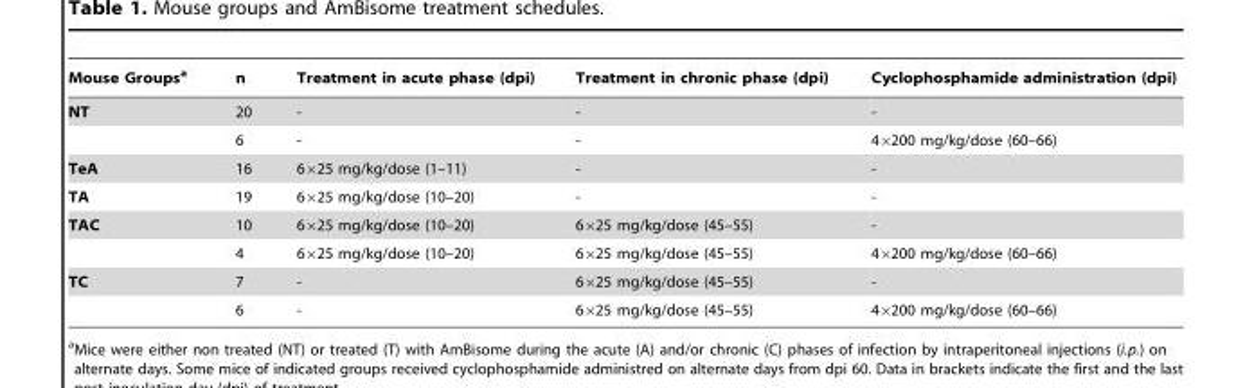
<table><thead><tr><td>Mouse Groups<sup>a</sup></td><td>n</td><td>Treatment in acute phase (dpi)</td><td>Treatment in chronic phase (dpi)</td><td>Cyclophosphamide administration (dpi)</td></tr></thead><tbody><tr><td rowspan="2">NT</td><td>20</td><td>-</td><td>-</td><td>-</td></tr><tr><td>6</td><td>-</td><td>-</td><td>4×200 mg/kg/dose (60–66)</td></tr><tr><td>TeA</td><td>16</td><td>6×25 mg/kg/dose (1–11)</td><td>-</td><td>-</td></tr><tr><td>TA</td><td>19</td><td>6×25 mg/kg/dose (10–20)</td><td>-</td><td>-</td></tr><tr><td rowspan="2">TAC</td><td>10</td><td>6×25 mg/kg/dose (10–20)</td><td>6×25 mg/kg/dose (45–55)</td><td>-</td></tr><tr><td>4</td><td>6×25 mg/kg/dose (10–20)</td><td>6×25 mg/kg/dose (45–55)</td><td>4×200 mg/kg/dose (60–66)</td></tr><tr><td rowspan="2">TC</td><td>7</td><td>-</td><td>6×25 mg/kg/dose (45–55)</td><td>-</td></tr><tr><td>6</td><td>-</td><td>6×25 mg/kg/dose (45–55)</td><td>4×200 mg/kg/dose (60–66)</td></tr></tbody></table>